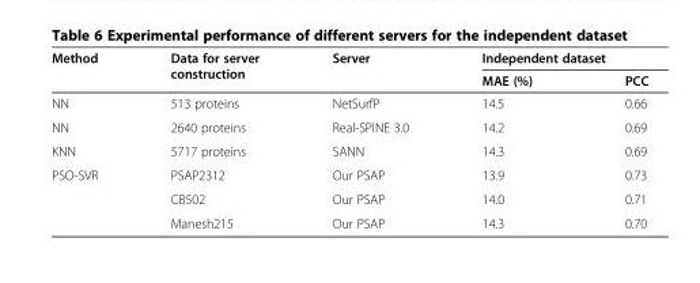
<table><thead><tr><td rowspan="2">Method</td><td rowspan="2">Data for server construction</td><td rowspan="2">Server</td><td colspan="2">Independent dataset</td></tr><tr><td>MAE (%)</td><td>PCC</td></tr></thead><tbody><tr><td>NN</td><td>513 proteins</td><td>NetSurfP</td><td>14.5</td><td>0.66</td></tr><tr><td>NN</td><td>2640 proteins</td><td>Real-SPINE 3.0</td><td>14.2</td><td>0.69</td></tr><tr><td>KNN</td><td>5717 proteins</td><td>SANN</td><td>14.3</td><td>0.69</td></tr><tr><td rowspan="3">PSO-SVR</td><td>PSAP2312</td><td>Our PSAP</td><td>13.9</td><td>0.73</td></tr><tr><td>CB502</td><td>Our PSAP</td><td>14.0</td><td>0.71</td></tr><tr><td>Manesh215</td><td>Our PSAP</td><td>14.3</td><td>0.70</td></tr></tbody></table>